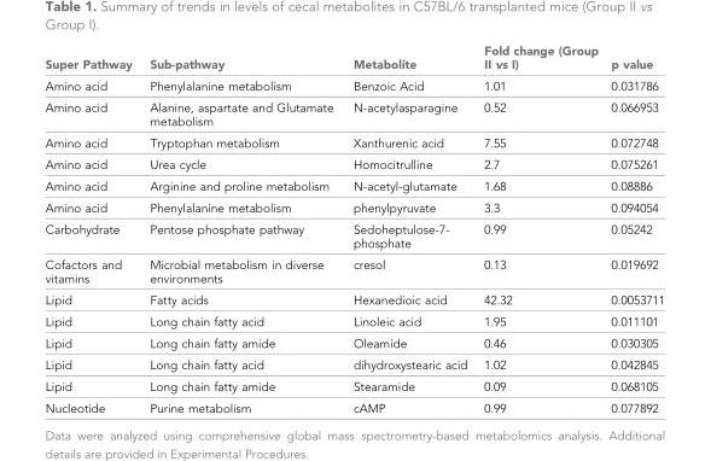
<table><thead><tr><td>Super Pathway</td><td>Sub-pathway</td><td>Metabolite</td><td>Fold change (Group II vs I)</td><td>p value</td></tr></thead><tbody><tr><td>Amino acid</td><td>Phenylalanine metabolism</td><td>Benzoic Acid</td><td>1.01</td><td>0.031786</td></tr><tr><td>Amino acid</td><td>Alanine, aspartate and Glutamate metabolism</td><td>N-acetylasparagine</td><td>0.52</td><td>0.066953</td></tr><tr><td>Amino acid</td><td>Tryptophan metabolism</td><td>Xanthurenic acid</td><td>7.55</td><td>0.072748</td></tr><tr><td>Amino acid</td><td>Urea cycle</td><td>Homocitrulline</td><td>2.7</td><td>0.075261</td></tr><tr><td>Amino acid</td><td>Arginine and proline metabolism</td><td>N-acetyl-glutamate</td><td>1.68</td><td>0.08886</td></tr><tr><td>Amino acid</td><td>Phenylalanine metabolism</td><td>phenylpyruvate</td><td>3.3</td><td>0.094054</td></tr><tr><td>Carbohydrate</td><td>Pentose phosphate pathway</td><td>Sedoheptulose-7- phosphate</td><td>0.99</td><td>0.05242</td></tr><tr><td>Cofactors and vitamins</td><td>Microbial metabolism in diverse environments</td><td>cresol</td><td>0.13</td><td>0.019692</td></tr><tr><td>Lipid</td><td>Fatty acids</td><td>Hexanedioic acid</td><td>42.32</td><td>0.0053711</td></tr><tr><td>Lipid</td><td>Long chain fatty acid</td><td>Linoleic acid</td><td>1.95</td><td>0.011101</td></tr><tr><td>Lipid</td><td>Long chain fatty amide</td><td>Oleamide</td><td>0.46</td><td>0.030305</td></tr><tr><td>Lipid</td><td>Long chain fatty acid</td><td>dihydroxystearic acid</td><td>1.02</td><td>0.042845</td></tr><tr><td>Lipid</td><td>Long chain fatty amide</td><td>Stearamide</td><td>0.09</td><td>0.068105</td></tr><tr><td>Nucleotide</td><td>Purine metabolism</td><td>cAMP</td><td>0.99</td><td>0.077892</td></tr></tbody></table>